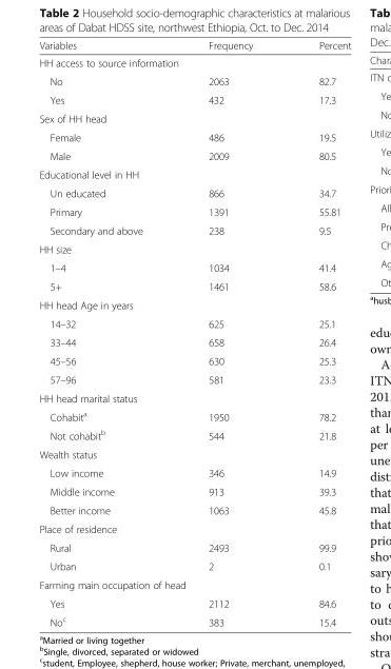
<table><thead><tr><td>Variables</td><td>Frequency</td><td>Percent</td></tr></thead><tbody><tr><td colspan="3">HH access to source information</td></tr><tr><td>No</td><td>2063</td><td>82.7</td></tr><tr><td>Yes</td><td>432</td><td>17.3</td></tr><tr><td colspan="3">Sex of HH head</td></tr><tr><td>Female</td><td>486</td><td>19.5</td></tr><tr><td>Male</td><td>2009</td><td>80.5</td></tr><tr><td colspan="3">Educational level in HH</td></tr><tr><td>Un educated</td><td>866</td><td>34.7</td></tr><tr><td>Primary</td><td>1391</td><td>55.81</td></tr><tr><td>Secondary and above</td><td>238</td><td>9.5</td></tr><tr><td colspan="3">HH size</td></tr><tr><td>1–4</td><td>1034</td><td>41.4</td></tr><tr><td>5+</td><td>1461</td><td>58.6</td></tr><tr><td colspan="3">HH head Age in years</td></tr><tr><td>14–32</td><td>625</td><td>25.1</td></tr><tr><td>33–44</td><td>658</td><td>26.4</td></tr><tr><td>45–56</td><td>630</td><td>25.3</td></tr><tr><td>57–96</td><td>581</td><td>23.3</td></tr><tr><td colspan="3">HH head marital status</td></tr><tr><td>Cohabit<sup>a</sup></td><td>1950</td><td>78.2</td></tr><tr><td>Not cohabit<sup>b</sup></td><td>544</td><td>21.8</td></tr><tr><td colspan="3">Wealth status</td></tr><tr><td>Low income</td><td>346</td><td>14.9</td></tr><tr><td>Middle income</td><td>913</td><td>39.3</td></tr><tr><td>Better income</td><td>1063</td><td>45.8</td></tr><tr><td colspan="3">Place of residence</td></tr><tr><td>Rural</td><td>2493</td><td>99.9</td></tr><tr><td>Urban</td><td>2</td><td>0.1</td></tr><tr><td colspan="3">Farming main occupation of head</td></tr><tr><td>Yes</td><td>2112</td><td>84.6</td></tr><tr><td>No<sup>c</sup></td><td>383</td><td>15.4</td></tr></tbody></table>